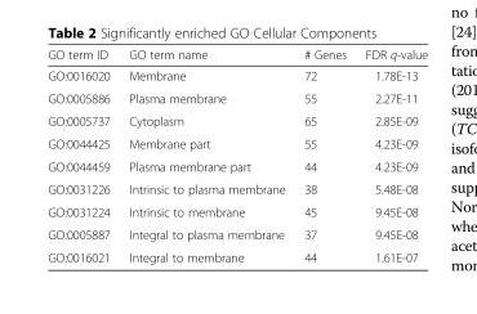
<table><thead><tr><td>GO term ID</td><td>GO term name</td><td># Genes</td><td>FDR q-value</td></tr></thead><tbody><tr><td>GO:0016020</td><td>Membrane</td><td>72</td><td>1.78E-13</td></tr><tr><td>GO:0005886</td><td>Plasma membrane</td><td>55</td><td>2.27E-11</td></tr><tr><td>GO:0005737</td><td>Cytoplasm</td><td>65</td><td>2.85E-09</td></tr><tr><td>GO:0044425</td><td>Membrane part</td><td>55</td><td>4.23E-09</td></tr><tr><td>GO:0044459</td><td>Plasma membrane part</td><td>44</td><td>4.23E-09</td></tr><tr><td>GO:0031226</td><td>Intrinsic to plasma membrane</td><td>38</td><td>5.48E-08</td></tr><tr><td>GO:0031224</td><td>Intrinsic to membrane</td><td>45</td><td>9.45E-08</td></tr><tr><td>GO:0005887</td><td>Integral to plasma membrane</td><td>37</td><td>9.45E-08</td></tr><tr><td>GO:0016021</td><td>Integral to membrane</td><td>44</td><td>1.61E-07</td></tr></tbody></table>